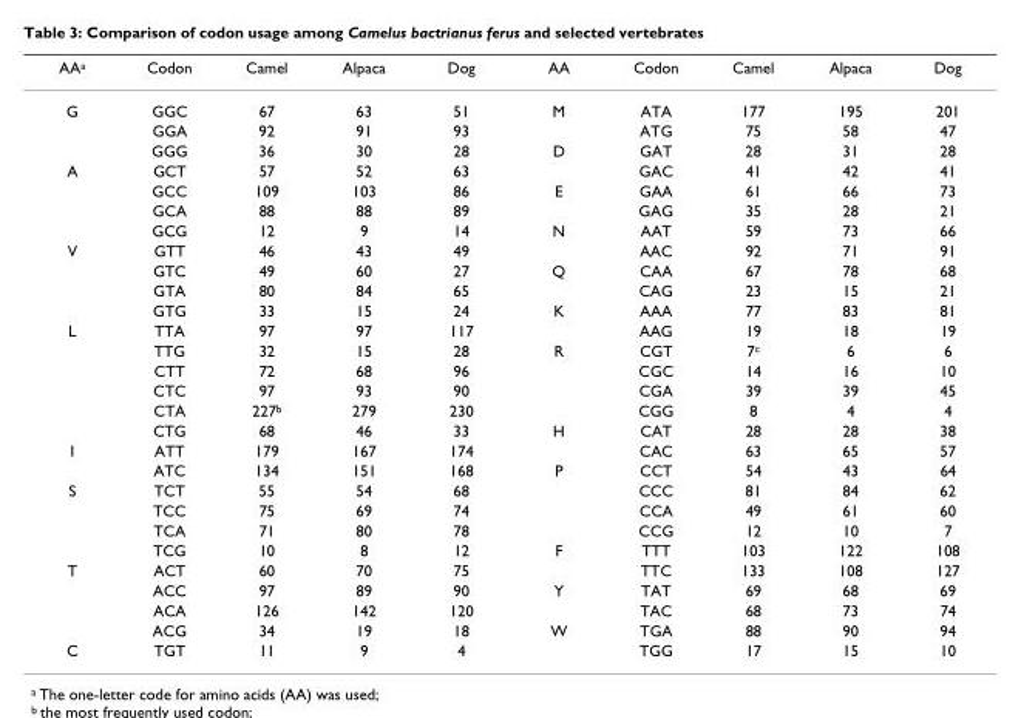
<table><thead><tr><td>AA<sup>a</sup></td><td>Codon</td><td>Camel</td><td>Alpaca</td><td>Dog</td><td>AA</td><td>Codon</td><td>Camel</td><td>Alpaca</td><td>Dog</td></tr></thead><tbody><tr><td rowspan="3">G</td><td>GGC</td><td>67</td><td>63</td><td>51</td><td>M</td><td>ATA</td><td>177</td><td>195</td><td>201</td></tr><tr><td>GGA</td><td>92</td><td>91</td><td>93</td><td></td><td>ATG</td><td>75</td><td>58</td><td>47</td></tr><tr><td>GGG</td><td>36</td><td>30</td><td>28</td><td>D</td><td>GAT</td><td>28</td><td>31</td><td>28</td></tr><tr><td rowspan="4">A</td><td>GCT</td><td>57</td><td>52</td><td>63</td><td></td><td>GAC</td><td>41</td><td>42</td><td>41</td></tr><tr><td>GCC</td><td>109</td><td>103</td><td>86</td><td>E</td><td>GAA</td><td>61</td><td>66</td><td>73</td></tr><tr><td>GCA</td><td>88</td><td>88</td><td>89</td><td></td><td>GAG</td><td>35</td><td>28</td><td>21</td></tr><tr><td>GCG</td><td>12</td><td>9</td><td>14</td><td>N</td><td>AAT</td><td>59</td><td>73</td><td>66</td></tr><tr><td rowspan="4">V</td><td>GTT</td><td>46</td><td>43</td><td>49</td><td></td><td>AAC</td><td>92</td><td>71</td><td>91</td></tr><tr><td>GTC</td><td>49</td><td>60</td><td>27</td><td>Q</td><td>CAA</td><td>67</td><td>78</td><td>68</td></tr><tr><td>GTA</td><td>80</td><td>84</td><td>65</td><td></td><td>CAG</td><td>23</td><td>15</td><td>21</td></tr><tr><td>GTG</td><td>33</td><td>15</td><td>24</td><td>K</td><td>AAA</td><td>77</td><td>83</td><td>81</td></tr><tr><td rowspan="6">L</td><td>TTA</td><td>97</td><td>97</td><td>117</td><td></td><td>AAG</td><td>19</td><td>18</td><td>19</td></tr><tr><td>TTG</td><td>32</td><td>15</td><td>28</td><td>R</td><td>CGT</td><td>7<sup>c</sup></td><td>6</td><td>6</td></tr><tr><td>CTT</td><td>72</td><td>68</td><td>96</td><td></td><td>CGC</td><td>14</td><td>16</td><td>10</td></tr><tr><td>CTC</td><td>97</td><td>93</td><td>90</td><td></td><td>CGA</td><td>39</td><td>39</td><td>45</td></tr><tr><td>CTA</td><td>227<sup>b</sup></td><td>279</td><td>230</td><td></td><td>CGG</td><td>8</td><td>4</td><td>4</td></tr><tr><td>CTG</td><td>68</td><td>46</td><td>33</td><td>H</td><td>CAT</td><td>28</td><td>28</td><td>38</td></tr><tr><td rowspan="2">I</td><td>ATT</td><td>179</td><td>167</td><td>174</td><td></td><td>CAC</td><td>63</td><td>65</td><td>57</td></tr><tr><td>ATC</td><td>134</td><td>151</td><td>168</td><td>P</td><td>CCT</td><td>54</td><td>43</td><td>64</td></tr><tr><td rowspan="4">S</td><td>TCT</td><td>55</td><td>54</td><td>68</td><td></td><td>CCC</td><td>81</td><td>84</td><td>62</td></tr><tr><td>TCC</td><td>75</td><td>69</td><td>74</td><td></td><td>CCA</td><td>49</td><td>61</td><td>60</td></tr><tr><td>TCA</td><td>71</td><td>80</td><td>78</td><td></td><td>CCG</td><td>12</td><td>10</td><td>7</td></tr><tr><td>TCG</td><td>10</td><td>8</td><td>12</td><td>F</td><td>TTT</td><td>103</td><td>122</td><td>108</td></tr><tr><td rowspan="4">T</td><td>ACT</td><td>60</td><td>70</td><td>75</td><td></td><td>TTC</td><td>133</td><td>108</td><td>127</td></tr><tr><td>ACC</td><td>97</td><td>89</td><td>90</td><td>Y</td><td>TAT</td><td>69</td><td>68</td><td>69</td></tr><tr><td>ACA</td><td>126</td><td>142</td><td>120</td><td></td><td>TAC</td><td>68</td><td>73</td><td>74</td></tr><tr><td>ACG</td><td>34</td><td>19</td><td>18</td><td>W</td><td>TGA</td><td>88</td><td>90</td><td>94</td></tr><tr><td>C</td><td>TGT</td><td>11</td><td>9</td><td>4</td><td></td><td>TGG</td><td>17</td><td>15</td><td>10</td></tr></tbody></table>